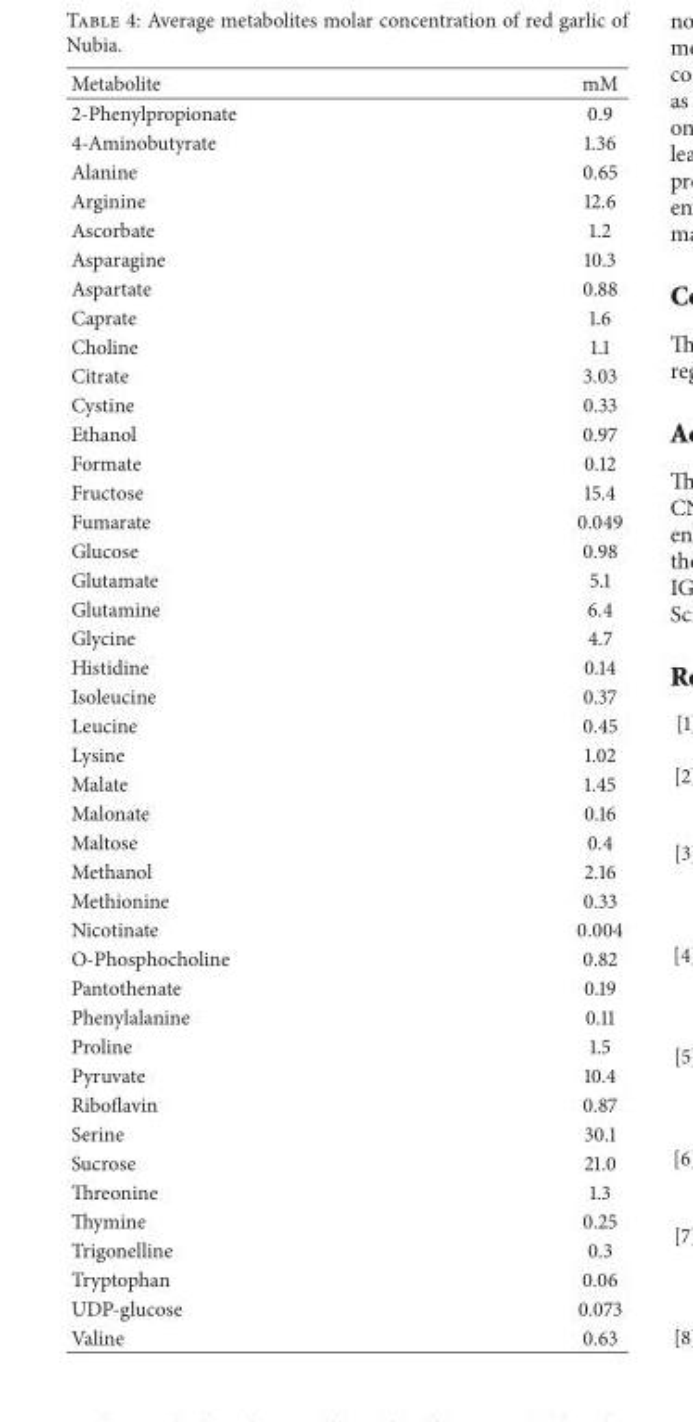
<table><thead><tr><td>Metabolite</td><td>mM</td></tr></thead><tbody><tr><td>2-Phenylpropionate</td><td>0.9</td></tr><tr><td>4-Aminobutyrate</td><td>1.36</td></tr><tr><td>Alanine</td><td>0.65</td></tr><tr><td>Arginine</td><td>12.6</td></tr><tr><td>Ascorbate</td><td>1.2</td></tr><tr><td>Asparagine</td><td>10.3</td></tr><tr><td>Aspartate</td><td>0.88</td></tr><tr><td>Caprate</td><td>1.6</td></tr><tr><td>Choline</td><td>1.1</td></tr><tr><td>Citrate</td><td>3.03</td></tr><tr><td>Cystine</td><td>0.33</td></tr><tr><td>Ethanol</td><td>0.97</td></tr><tr><td>Formate</td><td>0.12</td></tr><tr><td>Fructose</td><td>15.4</td></tr><tr><td>Fumarate</td><td>0.049</td></tr><tr><td>Glucose</td><td>0.98</td></tr><tr><td>Glutamate</td><td>5.1</td></tr><tr><td>Glutamine</td><td>6.4</td></tr><tr><td>Glycine</td><td>4.7</td></tr><tr><td>Histidine</td><td>0.14</td></tr><tr><td>Isoleucine</td><td>0.37</td></tr><tr><td>Leucine</td><td>0.45</td></tr><tr><td>Lysine</td><td>1.02</td></tr><tr><td>Malate</td><td>1.45</td></tr><tr><td>Malonate</td><td>0.16</td></tr><tr><td>Maltose</td><td>0.4</td></tr><tr><td>Methanol</td><td>2.16</td></tr><tr><td>Methionine</td><td>0.33</td></tr><tr><td>Nicotinate</td><td>0.004</td></tr><tr><td>O-Phosphocholine</td><td>0.82</td></tr><tr><td>Pantothenate</td><td>0.19</td></tr><tr><td>Phenylalanine</td><td>0.11</td></tr><tr><td>Proline</td><td>1.5</td></tr><tr><td>Pyruvate</td><td>10.4</td></tr><tr><td>Riboflavin</td><td>0.87</td></tr><tr><td>Serine</td><td>30.1</td></tr><tr><td>Sucrose</td><td>21.0</td></tr><tr><td>Threonine</td><td>1.3</td></tr><tr><td>Thymine</td><td>0.25</td></tr><tr><td>Trigonelline</td><td>0.3</td></tr><tr><td>Tryptophan</td><td>0.06</td></tr><tr><td>UDP-glucose</td><td>0.073</td></tr><tr><td>Valine</td><td>0.63</td></tr></tbody></table>